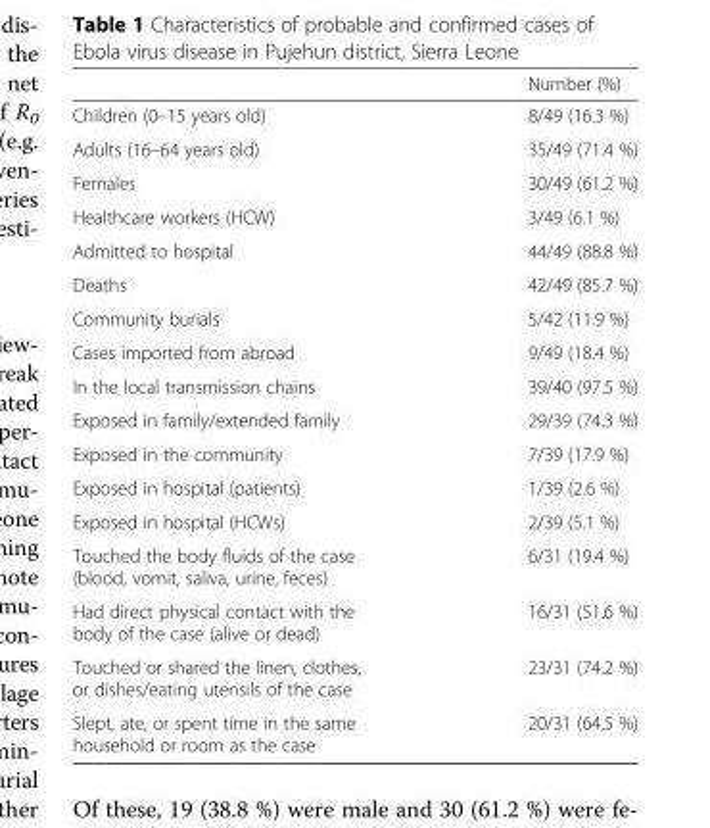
<table><thead><tr><td></td><td>Number (%)</td></tr></thead><tbody><tr><td>Children (0–15 years old)</td><td>8/49 (16.3 %)</td></tr><tr><td>Adults (16–64 years old)</td><td>35/49 (71.4 %)</td></tr><tr><td>Females</td><td>30/49 (61.2 %)</td></tr><tr><td>Healthcare workers (HCW)</td><td>3/49 (6.1 %)</td></tr><tr><td>Admitted to hospital</td><td>44/49 (88.8 %)</td></tr><tr><td>Deaths</td><td>42/49 (85.7 %)</td></tr><tr><td>Community burials</td><td>5/42 (11.9 %)</td></tr><tr><td>Cases imported from abroad</td><td>9/49 (18.4 %)</td></tr><tr><td>In the local transmission chains</td><td>39/40 (97.5 %)</td></tr><tr><td>Exposed in family/extended family</td><td>29/39 (74.3 %)</td></tr><tr><td>Exposed in the community</td><td>7/39 (17.9 %)</td></tr><tr><td>Exposed in hospital (patients)</td><td>1/39 (2.6 %)</td></tr><tr><td>Exposed in hospital (HCWs)</td><td>2/39 (5.1 %)</td></tr><tr><td>Touched the body fluids of the case (blood, vomit, saliva, urine, feces)</td><td>6/31 (19.4 %)</td></tr><tr><td>Had direct physical contact with the body of the case (alive or dead)</td><td>16/31 (51.6 %)</td></tr><tr><td>Touched or shared the linen, clothes, or dishes/eating utensils of the case</td><td>23/31 (74.2 %)</td></tr><tr><td>Slept, ate, or spent time in the same household or room as the case</td><td>20/31 (64.5 %)</td></tr></tbody></table>